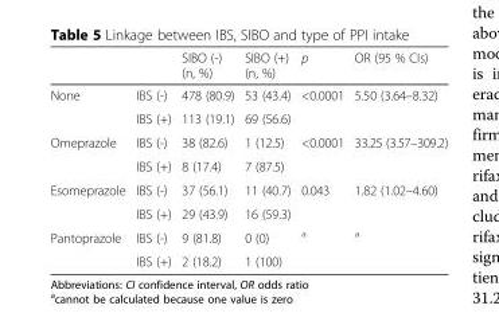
<table><thead><tr><td></td><td></td><td>SIBO (-) (n, %)</td><td>SIBO (+) (n, %)</td><td>p</td><td>OR (95 % CIs)</td></tr></thead><tbody><tr><td rowspan="2">None</td><td>IBS (-)</td><td>478 (80.9)</td><td>53 (43.4)</td><td>&lt;0.0001</td><td>5.50 (3.64–8.32)</td></tr><tr><td>IBS (+)</td><td>113 (19.1)</td><td>69 (56.6)</td><td></td><td></td></tr><tr><td rowspan="2">Omeprazole</td><td>IBS (-)</td><td>38 (82.6)</td><td>1 (12.5)</td><td>&lt;0.0001</td><td>33.25 (3.57–309.2)</td></tr><tr><td>IBS (+)</td><td>8 (17.4)</td><td>7 (87.5)</td><td></td><td></td></tr><tr><td rowspan="2">Esomeprazole</td><td>IBS (-)</td><td>37 (56.1)</td><td>11 (40.7)</td><td>0.043</td><td>1.82 (1.02–4.60)</td></tr><tr><td>IBS (+)</td><td>29 (43.9)</td><td>16 (59.3)</td><td></td><td></td></tr><tr><td rowspan="2">Pantoprazole</td><td>IBS (-)</td><td>9 (81.8)</td><td>0 (0)</td><td><sup>a</sup></td><td><sup>a</sup></td></tr><tr><td>IBS (+)</td><td>2 (18.2)</td><td>1 (100)</td><td></td><td></td></tr></tbody></table>